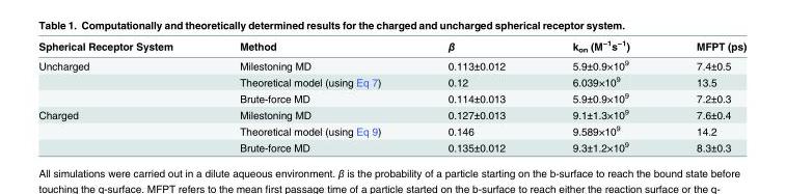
<table><thead><tr><td>Spherical Receptor System</td><td>Method</td><td>β</td><td>k<sub>on</sub> (M<sup>−1</sup>s<sup>−1</sup>)</td><td>MFPT (ps)</td></tr></thead><tbody><tr><td rowspan="3">Uncharged</td><td>Milestoning MD</td><td>0.113±0.012</td><td>5.9±0.9×10<sup>9</sup></td><td>7.4±0.5</td></tr><tr><td>Theoretical model (using Eq 7)</td><td>0.12</td><td>6.039×10<sup>9</sup></td><td>13.5</td></tr><tr><td>Brute-force MD</td><td>0.114±0.013</td><td>5.9±0.9×10<sup>9</sup></td><td>7.2±0.3</td></tr><tr><td rowspan="3">Charged</td><td>Milestoning MD</td><td>0.127±0.013</td><td>9.1±1.3×10<sup>9</sup></td><td>7.6±0.4</td></tr><tr><td>Theoretical model (using Eq 9)</td><td>0.146</td><td>9.589×10<sup>9</sup></td><td>14.2</td></tr><tr><td>Brute-force MD</td><td>0.135±0.012</td><td>9.3±1.2×10<sup>9</sup></td><td>8.3±0.3</td></tr></tbody></table>